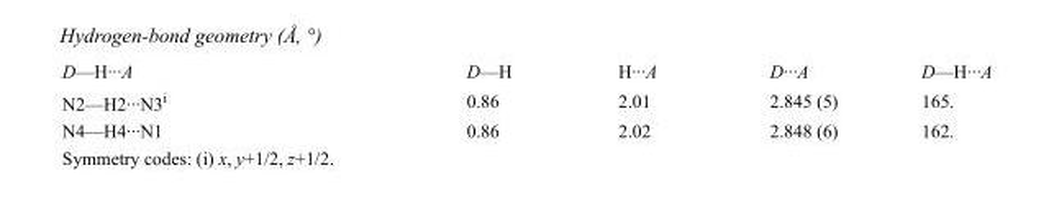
<table><tbody><tr><td>D—H···A</td><td>D—H</td><td>H···A</td><td>D···A</td><td>D—H···A</td></tr><tr><td>N2—H2···N3<sup>i</sup></td><td>0.86</td><td>2.01</td><td>2.845 (5)</td><td>165.</td></tr><tr><td>N4—H4···N1</td><td>0.86</td><td>2.02</td><td>2.848 (6)</td><td>162.</td></tr></tbody></table>